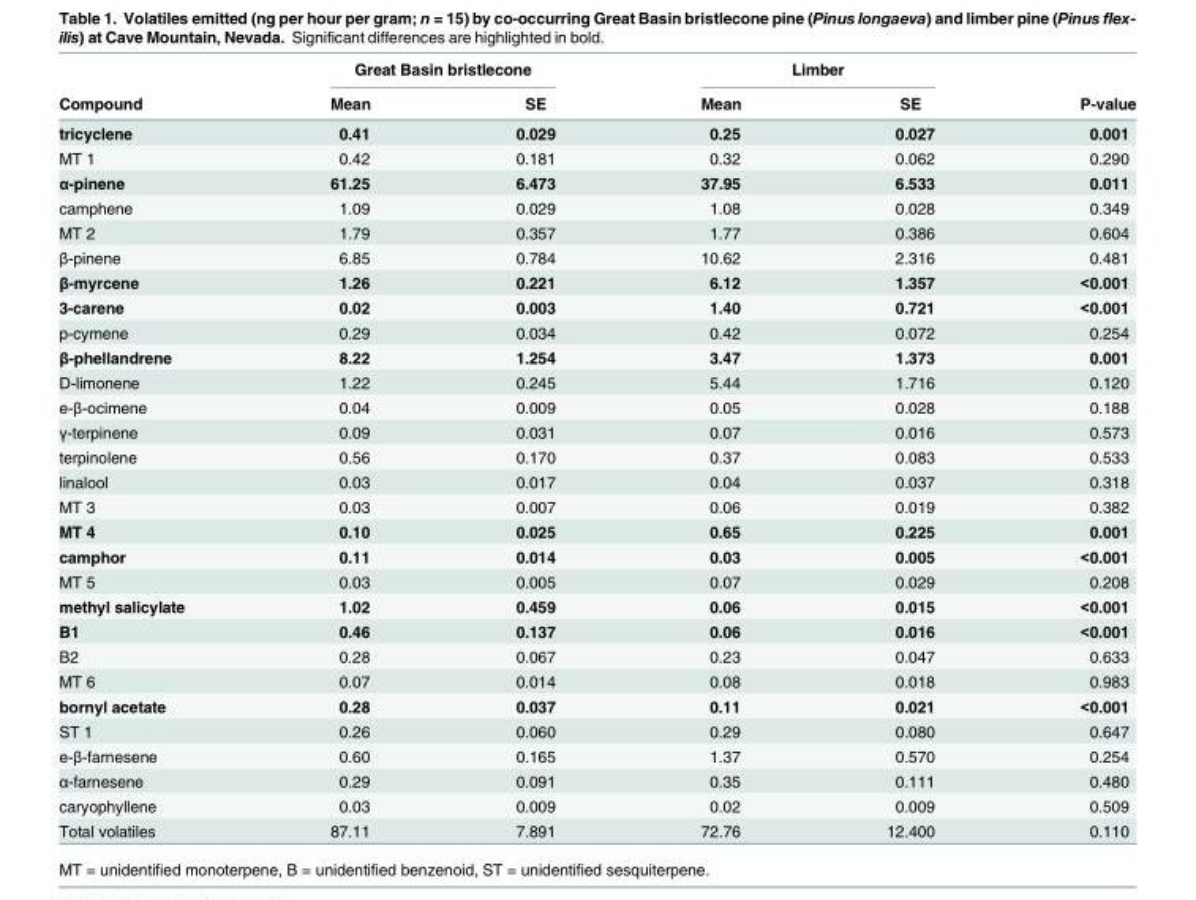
<table><thead><tr><td rowspan="2">Compound</td><td colspan="2">Great Basin bristlecone</td><td colspan="2">Limber</td><td rowspan="2">P-value</td></tr><tr><td>Mean</td><td>SE</td><td>Mean</td><td>SE</td></tr></thead><tbody><tr><td>tricyclene</td><td>0.41</td><td>0.029</td><td>0.25</td><td>0.027</td><td>0.001</td></tr><tr><td>MT 1</td><td>0.42</td><td>0.181</td><td>0.32</td><td>0.062</td><td>0.290</td></tr><tr><td>α-pinene</td><td>61.25</td><td>6.473</td><td>37.95</td><td>6.533</td><td>0.011</td></tr><tr><td>camphene</td><td>1.09</td><td>0.029</td><td>1.08</td><td>0.028</td><td>0.349</td></tr><tr><td>MT 2</td><td>1.79</td><td>0.357</td><td>1.77</td><td>0.386</td><td>0.604</td></tr><tr><td>β-pinene</td><td>6.85</td><td>0.784</td><td>10.62</td><td>2.316</td><td>0.481</td></tr><tr><td>β-myrcene</td><td>1.26</td><td>0.221</td><td>6.12</td><td>1.357</td><td>&lt;0.001</td></tr><tr><td>3-carene</td><td>0.02</td><td>0.003</td><td>1.40</td><td>0.721</td><td>&lt;0.001</td></tr><tr><td>p-cymene</td><td>0.29</td><td>0.034</td><td>0.42</td><td>0.072</td><td>0.254</td></tr><tr><td>β-phellandrene</td><td>8.22</td><td>1.254</td><td>3.47</td><td>1.373</td><td>0.001</td></tr><tr><td>D-limonene</td><td>1.22</td><td>0.245</td><td>5.44</td><td>1.716</td><td>0.120</td></tr><tr><td>e-β-ocimene</td><td>0.04</td><td>0.009</td><td>0.05</td><td>0.028</td><td>0.188</td></tr><tr><td>γ-terpinene</td><td>0.09</td><td>0.031</td><td>0.07</td><td>0.016</td><td>0.573</td></tr><tr><td>terpinolene</td><td>0.56</td><td>0.170</td><td>0.37</td><td>0.083</td><td>0.533</td></tr><tr><td>linalool</td><td>0.03</td><td>0.017</td><td>0.04</td><td>0.037</td><td>0.318</td></tr><tr><td>MT 3</td><td>0.03</td><td>0.007</td><td>0.06</td><td>0.019</td><td>0.382</td></tr><tr><td>MT 4</td><td>0.10</td><td>0.025</td><td>0.65</td><td>0.225</td><td>0.001</td></tr><tr><td>camphor</td><td>0.11</td><td>0.014</td><td>0.03</td><td>0.005</td><td>&lt;0.001</td></tr><tr><td>MT 5</td><td>0.03</td><td>0.005</td><td>0.07</td><td>0.029</td><td>0.208</td></tr><tr><td>methyl salicylate</td><td>1.02</td><td>0.459</td><td>0.06</td><td>0.015</td><td>&lt;0.001</td></tr><tr><td>B1</td><td>0.46</td><td>0.137</td><td>0.06</td><td>0.016</td><td>&lt;0.001</td></tr><tr><td>B2</td><td>0.28</td><td>0.067</td><td>0.23</td><td>0.047</td><td>0.633</td></tr><tr><td>MT 6</td><td>0.07</td><td>0.014</td><td>0.08</td><td>0.018</td><td>0.983</td></tr><tr><td>bornyl acetate</td><td>0.28</td><td>0.037</td><td>0.11</td><td>0.021</td><td>&lt;0.001</td></tr><tr><td>ST 1</td><td>0.26</td><td>0.060</td><td>0.29</td><td>0.080</td><td>0.647</td></tr><tr><td>e-β-farnesene</td><td>0.60</td><td>0.165</td><td>1.37</td><td>0.570</td><td>0.254</td></tr><tr><td>α-farnesene</td><td>0.29</td><td>0.091</td><td>0.35</td><td>0.111</td><td>0.480</td></tr><tr><td>caryophyllene</td><td>0.03</td><td>0.009</td><td>0.02</td><td>0.009</td><td>0.509</td></tr><tr><td>Total volatiles</td><td>87.11</td><td>7.891</td><td>72.76</td><td>12.400</td><td>0.110</td></tr></tbody></table>